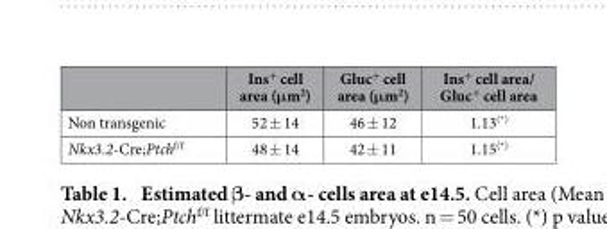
<table><thead><tr><td></td><td>Ins<sup>+</sup> cell area (μm<sup>2</sup>)</td><td>Gluc<sup>+</sup> cell area (μm<sup>2</sup>)</td><td>Ins<sup>+</sup> cell area/ Gluc<sup>+</sup> cell area</td></tr></thead><tbody><tr><td>Non transgenic</td><td>52 ± 14</td><td>46 ± 12</td><td>1.13<sup>(*)</sup></td></tr><tr><td>Nkx3.2-Cre;Ptch<sup>f/f</sup></td><td>48 ± 14</td><td>42 ± 11</td><td>1.15<sup>(*)</sup></td></tr></tbody></table>